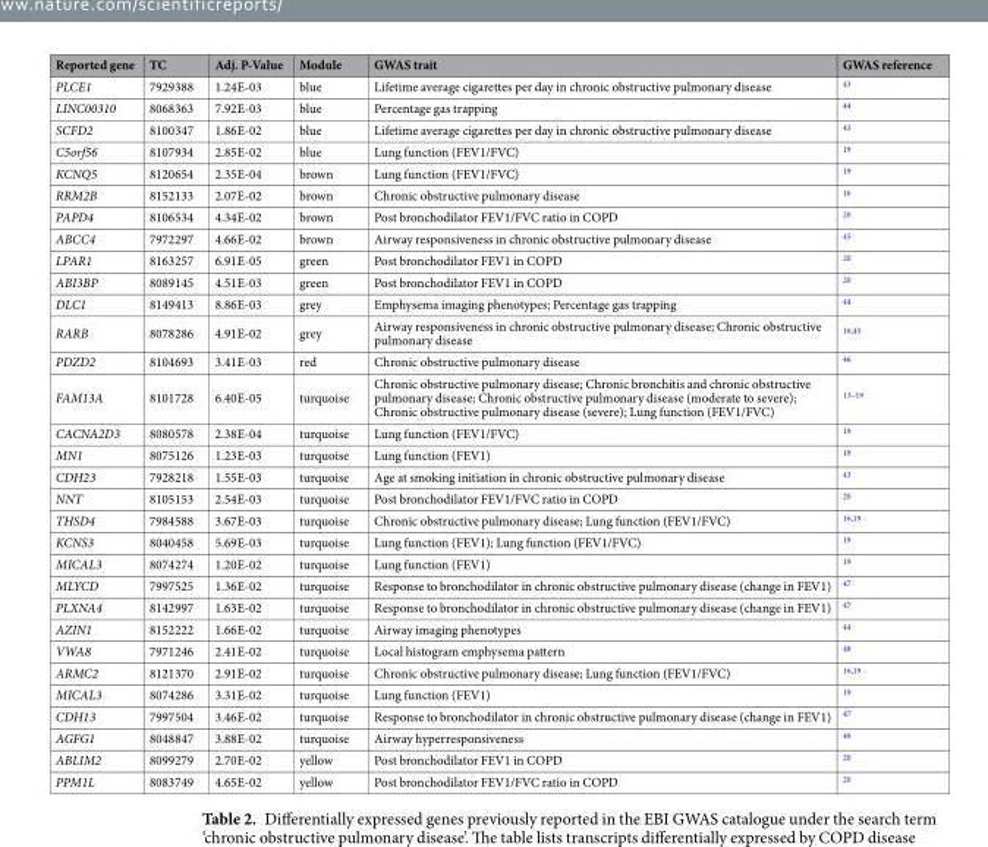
<table><thead><tr><td>Reported gene</td><td>TC</td><td>Adj. P-Value</td><td>Module</td><td>GWAS trait</td><td>GWAS reference</td></tr></thead><tbody><tr><td>PLCE1</td><td>7929388</td><td>1.24E-03</td><td>blue</td><td>Lifetime average cigarettes per day in chronic obstructive pulmonary disease</td><td><sup>43</sup></td></tr><tr><td>LINC00310</td><td>8068363</td><td>7.92E-03</td><td>blue</td><td>Percentage gas trapping</td><td><sup>44</sup></td></tr><tr><td>SCFD2</td><td>8100347</td><td>1.86E-02</td><td>blue</td><td>Lifetime average cigarettes per day in chronic obstructive pulmonary disease</td><td><sup>43</sup></td></tr><tr><td>C5orf56</td><td>8107934</td><td>2.85E-02</td><td>blue</td><td>Lung function (FEV1/FVC)</td><td><sup>19</sup></td></tr><tr><td>KCNQ5</td><td>8120654</td><td>2.35E-04</td><td>brown</td><td>Lung function (FEV1/FVC)</td><td><sup>19</sup></td></tr><tr><td>RRM2B</td><td>8152133</td><td>2.07E-02</td><td>brown</td><td>Chronic obstructive pulmonary disease</td><td><sup>16</sup></td></tr><tr><td>PAPD4</td><td>8106534</td><td>4.34E-02</td><td>brown</td><td>Post bronchodilator FEV1/FVC ratio in COPD</td><td><sup>20</sup></td></tr><tr><td>ABCC4</td><td>7972297</td><td>4.66E-02</td><td>brown</td><td>Airway responsiveness in chronic obstructive pulmonary disease</td><td><sup>45</sup></td></tr><tr><td>LPAR1</td><td>8163257</td><td>6.91E-05</td><td>green</td><td>Post bronchodilator FEV1 in COPD</td><td><sup>20</sup></td></tr><tr><td>ABI3BP</td><td>8089145</td><td>4.51E-03</td><td>green</td><td>Post bronchodilator FEV1 in COPD</td><td><sup>20</sup></td></tr><tr><td>DLC1</td><td>8149413</td><td>8.86E-03</td><td>grey</td><td>Emphysema imaging phenotypes; Percentage gas trapping</td><td><sup>44</sup></td></tr><tr><td>RARB</td><td>8078286</td><td>4.91E-02</td><td>grey</td><td>Airway responsiveness in chronic obstructive pulmonary disease; Chronic obstructive pulmonary disease</td><td><sup>16,45</sup></td></tr><tr><td>PDZD2</td><td>8104693</td><td>3.41E-03</td><td>red</td><td>Chronic obstructive pulmonary disease</td><td><sup>46</sup></td></tr><tr><td>FAM13A</td><td>8101728</td><td>6.40E-05</td><td>turquoise</td><td>Chronic obstructive pulmonary disease; Chronic bronchitis and chronic obstructive pulmonary disease; Chronic obstructive pulmonary disease (moderate to severe); Chronic obstructive pulmonary disease (severe); Lung function (FEV1/FVC)</td><td><sup>13–19</sup></td></tr><tr><td>CACNA2D3</td><td>8080578</td><td>2.38E-04</td><td>turquoise</td><td>Lung function (FEV1/FVC)</td><td><sup>19</sup></td></tr><tr><td>MN1</td><td>8075126</td><td>1.23E-03</td><td>turquoise</td><td>Lung function (FEV1)</td><td><sup>19</sup></td></tr><tr><td>CDH23</td><td>7928218</td><td>1.55E-03</td><td>turquoise</td><td>Age at smoking initiation in chronic obstructive pulmonary disease</td><td><sup>43</sup></td></tr><tr><td>NNT</td><td>8105153</td><td>2.54E-03</td><td>turquoise</td><td>Post bronchodilator FEV1/FVC ratio in COPD</td><td><sup>20</sup></td></tr><tr><td>THSD4</td><td>7984588</td><td>3.67E-03</td><td>turquoise</td><td>Chronic obstructive pulmonary disease; Lung function (FEV1/FVC)</td><td><sup>16,19</sup></td></tr><tr><td>KCNS3</td><td>8040458</td><td>5.69E-03</td><td>turquoise</td><td>Lung function (FEV1); Lung function (FEV1/FVC)</td><td><sup>19</sup></td></tr><tr><td>MICAL3</td><td>8074274</td><td>1.20E-02</td><td>turquoise</td><td>Lung function (FEV1)</td><td><sup>19</sup></td></tr><tr><td>MLYCD</td><td>7997525</td><td>1.36E-02</td><td>turquoise</td><td>Response to bronchodilator in chronic obstructive pulmonary disease (change in FEV1)</td><td><sup>47</sup></td></tr><tr><td>PLXNA4</td><td>8142997</td><td>1.63E-02</td><td>turquoise</td><td>Response to bronchodilator in chronic obstructive pulmonary disease (change in FEV1)</td><td><sup>47</sup></td></tr><tr><td>AZIN1</td><td>8152222</td><td>1.66E-02</td><td>turquoise</td><td>Airway imaging phenotypes</td><td><sup>44</sup></td></tr><tr><td>VWA8</td><td>7971246</td><td>2.41E-02</td><td>turquoise</td><td>Local histogram emphysema pattern</td><td><sup>48</sup></td></tr><tr><td>ARMC2</td><td>8121370</td><td>2.91E-02</td><td>turquoise</td><td>Chronic obstructive pulmonary disease; Lung function (FEV1/FVC)</td><td><sup>16,19</sup></td></tr><tr><td>MICAL3</td><td>8074286</td><td>3.31E-02</td><td>turquoise</td><td>Lung function (FEV1)</td><td><sup>19</sup></td></tr><tr><td>CDH13</td><td>7997504</td><td>3.46E-02</td><td>turquoise</td><td>Response to bronchodilator in chronic obstructive pulmonary disease (change in FEV1)</td><td><sup>47</sup></td></tr><tr><td>AGFG1</td><td>8048847</td><td>3.88E-02</td><td>turquoise</td><td>Airway hyperresponsiveness</td><td><sup>49</sup></td></tr><tr><td>ABLIM2</td><td>8099279</td><td>2.70E-02</td><td>yellow</td><td>Post bronchodilator FEV1 in COPD</td><td><sup>20</sup></td></tr><tr><td>PPM1L</td><td>8083749</td><td>4.65E-02</td><td>yellow</td><td>Post bronchodilator FEV1/FVC ratio in COPD</td><td><sup>20</sup></td></tr></tbody></table>